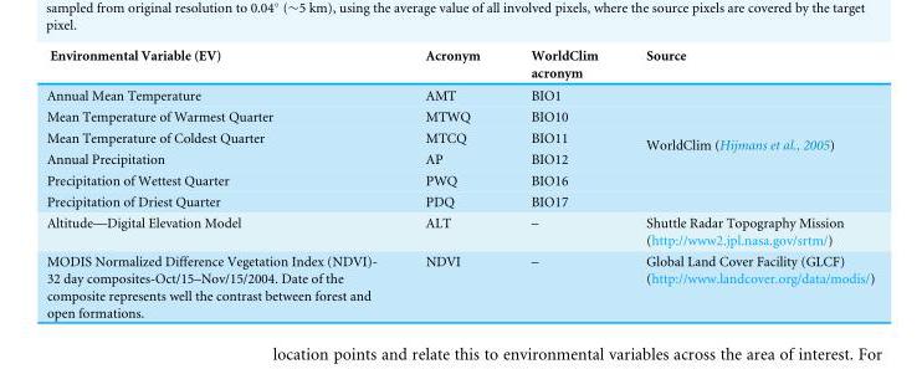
<table><thead><tr><td>Environmental Variable (EV)</td><td>Acronym</td><td>WorldClim acronym</td><td>Source</td></tr></thead><tbody><tr><td>Annual Mean Temperature</td><td>AMT</td><td>BIO1</td><td rowspan="6">WorldClim (Hijmans et al., 2005)</td></tr><tr><td>Mean Temperature of Warmest Quarter</td><td>MTWQ</td><td>BIO10</td></tr><tr><td>Mean Temperature of Coldest Quarter</td><td>MTCQ</td><td>BIO11</td></tr><tr><td>Annual Precipitation</td><td>AP</td><td>BIO12</td></tr><tr><td>Precipitation of Wettest Quarter</td><td>PWQ</td><td>BIO16</td></tr><tr><td>Precipitation of Driest Quarter</td><td>PDQ</td><td>BIO17</td></tr><tr><td>Altitude—Digital Elevation Model</td><td>ALT</td><td>–</td><td>Shuttle Radar Topography Mission (http://www2.jpl.nasa.gov/srtm/)</td></tr><tr><td>MODIS Normalized Difference Vegetation Index (NDVI)- 32 day composites-Oct/15–Nov/15/2004. Date of the composite represents well the contrast between forest and open formations.</td><td>NDVI</td><td>–</td><td>Global Land Cover Facility (GLCF) (http://www.landcover.org/data/modis/)</td></tr></tbody></table>